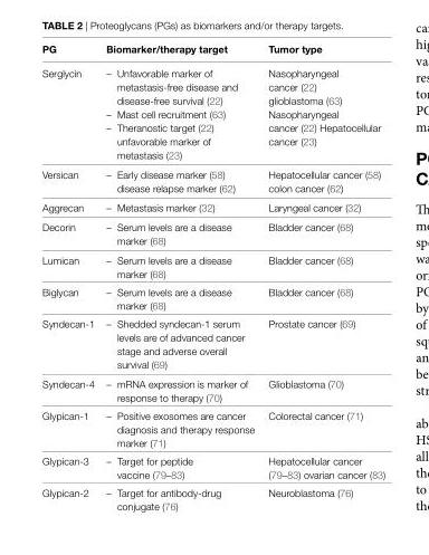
<table><thead><tr><td>PG</td><td>Biomarker/therapy target</td><td>Tumor type</td></tr></thead><tbody><tr><td>Serglycin</td><td>– Unfavorable marker of metastasis-free disease and disease-free survival (22) – Mast cell recruitment (63) – Theranostic target (22) unfavorable marker of metastasis (23)</td><td>Nasopharyngeal cancer (22) glioblastoma (63) Nasopharyngeal cancer (22) Hepatocellular cancer (23)</td></tr><tr><td>Versican</td><td>– Early disease marker (58) disease relapse marker (62)</td><td>Hepatocellular cancer (58) colon cancer (62)</td></tr><tr><td>Aggrecan</td><td>– Metastasis marker (32)</td><td>Laryngeal cancer (32)</td></tr><tr><td>Decorin</td><td>– Serum levels are a disease marker (68)</td><td>Bladder cancer (68)</td></tr><tr><td>Lumican</td><td>– Serum levels are a disease marker (68)</td><td>Bladder cancer (68)</td></tr><tr><td>Biglycan</td><td>– Serum levels are a disease marker (68)</td><td>Bladder cancer (68)</td></tr><tr><td>Syndecan-1</td><td>– Shedded syndecan-1 serum levels are of advanced cancer stage and adverse overall survival (69)</td><td>Prostate cancer (69)</td></tr><tr><td>Syndecan-4</td><td>– mRNA expression is marker of response to therapy (70)</td><td>Glioblastoma (70)</td></tr><tr><td>Glypican-1</td><td>– Positive exosomes are cancer diagnosis and therapy response marker (71)</td><td>Colorectal cancer (71)</td></tr><tr><td>Glypican-3</td><td>– Target for peptide vaccine (79–83)</td><td>Hepatocellular cancer (79–83) ovarian cancer (83)</td></tr><tr><td>Glypican-2</td><td>– Target for antibody-drug conjugate (76)</td><td>Neuroblastoma (76)</td></tr></tbody></table>